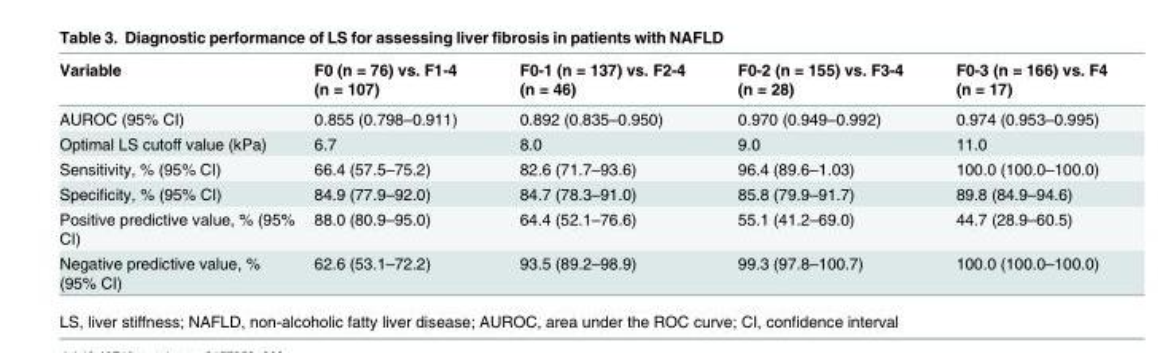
<table><thead><tr><td>Variable</td><td>F0 (n = 76) vs. F1-4 (n = 107)</td><td>F0-1 (n = 137) vs. F2-4 (n = 46)</td><td>F0-2 (n = 155) vs. F3-4 (n = 28)</td><td>F0-3 (n = 166) vs. F4 (n = 17)</td></tr></thead><tbody><tr><td>AUROC (95% CI)</td><td>0.855 (0.798–0.911)</td><td>0.892 (0.835–0.950)</td><td>0.970 (0.949–0.992)</td><td>0.974 (0.953–0.995)</td></tr><tr><td>Optimal LS cutoff value (kPa)</td><td>6.7</td><td>8.0</td><td>9.0</td><td>11.0</td></tr><tr><td>Sensitivity, % (95% CI)</td><td>66.4 (57.5–75.2)</td><td>82.6 (71.7–93.6)</td><td>96.4 (89.6–1.03)</td><td>100.0 (100.0–100.0)</td></tr><tr><td>Specificity, % (95% CI)</td><td>84.9 (77.9–92.0)</td><td>84.7 (78.3–91.0)</td><td>85.8 (79.9–91.7)</td><td>89.8 (84.9–94.6)</td></tr><tr><td>Positive predictive value, % (95% CI)</td><td>88.0 (80.9–95.0)</td><td>64.4 (52.1–76.6)</td><td>55.1 (41.2–69.0)</td><td>44.7 (28.9–60.5)</td></tr><tr><td>Negative predictive value, % (95% CI)</td><td>62.6 (53.1–72.2)</td><td>93.5 (89.2–98.9)</td><td>99.3 (97.8–100.7)</td><td>100.0 (100.0–100.0)</td></tr></tbody></table>